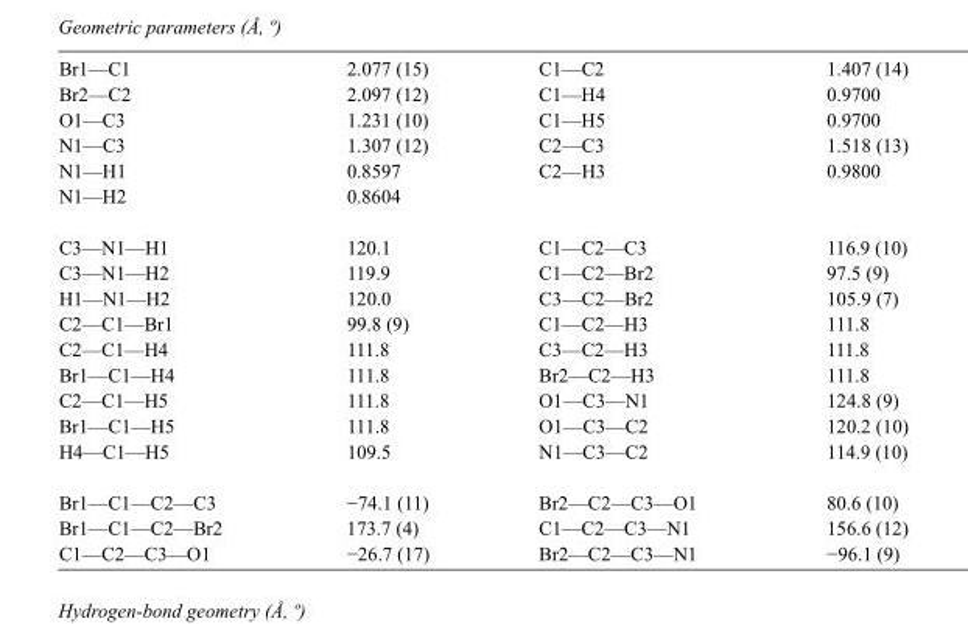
<table><tbody><tr><td>Br1—C1</td><td>2.077 (15)</td><td>C1—C2</td><td>1.407 (14)</td></tr><tr><td>Br2—C2</td><td>2.097 (12)</td><td>C1—H4</td><td>0.9700</td></tr><tr><td>O1—C3</td><td>1.231 (10)</td><td>C1—H5</td><td>0.9700</td></tr><tr><td>N1—C3</td><td>1.307 (12)</td><td>C2—C3</td><td>1.518 (13)</td></tr><tr><td>N1—H1</td><td>0.8597</td><td>C2—H3</td><td>0.9800</td></tr><tr><td>N1—H2</td><td>0.8604</td><td></td><td></td></tr><tr><td>C3—N1—H1</td><td>120.1</td><td>C1—C2—C3</td><td>116.9 (10)</td></tr><tr><td>C3—N1—H2</td><td>119.9</td><td>C1—C2—Br2</td><td>97.5 (9)</td></tr><tr><td>H1—N1—H2</td><td>120.0</td><td>C3—C2—Br2</td><td>105.9 (7)</td></tr><tr><td>C2—C1—Br1</td><td>99.8 (9)</td><td>C1—C2—H3</td><td>111.8</td></tr><tr><td>C2—C1—H4</td><td>111.8</td><td>C3—C2—H3</td><td>111.8</td></tr><tr><td>Br1—C1—H4</td><td>111.8</td><td>Br2—C2—H3</td><td>111.8</td></tr><tr><td>C2—C1—H5</td><td>111.8</td><td>O1—C3—N1</td><td>124.8 (9)</td></tr><tr><td>Br1—C1—H5</td><td>111.8</td><td>O1—C3—C2</td><td>120.2 (10)</td></tr><tr><td>H4—C1—H5</td><td>109.5</td><td>N1—C3—C2</td><td>114.9 (10)</td></tr><tr><td>Br1—C1—C2—C3</td><td>−74.1 (11)</td><td>Br2—C2—C3—O1</td><td>80.6 (10)</td></tr><tr><td>Br1—C1—C2—Br2</td><td>173.7 (4)</td><td>C1—C2—C3—N1</td><td>156.6 (12)</td></tr><tr><td>C1—C2—C3—O1</td><td>−26.7 (17)</td><td>Br2—C2—C3—N1</td><td>−96.1 (9)</td></tr></tbody></table>